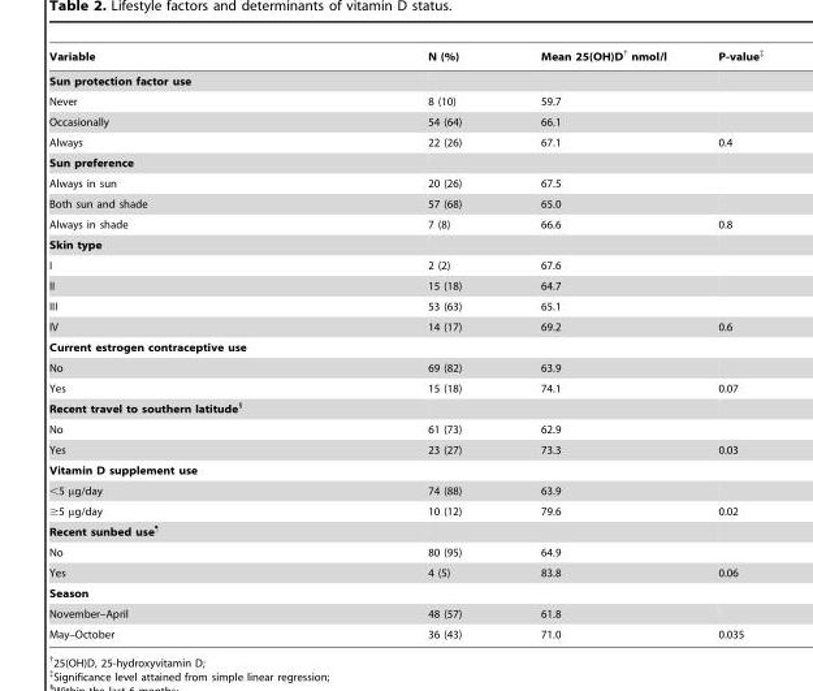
<table><thead><tr><td>Variable</td><td>N (%)</td><td>Mean 25(OH)D† nmol/l</td><td>P-value‡</td></tr></thead><tbody><tr><td colspan="4">Sun protection factor use</td></tr><tr><td>Never</td><td>8 (10)</td><td>59.7</td><td></td></tr><tr><td>Occasionally</td><td>54 (64)</td><td>66.1</td><td></td></tr><tr><td>Always</td><td>22 (26)</td><td>67.1</td><td>0.4</td></tr><tr><td colspan="4">Sun preference</td></tr><tr><td>Always in sun</td><td>20 (26)</td><td>67.5</td><td></td></tr><tr><td>Both sun and shade</td><td>57 (68)</td><td>65.0</td><td></td></tr><tr><td>Always in shade</td><td>7 (8)</td><td>66.6</td><td>0.8</td></tr><tr><td colspan="4">Skin type</td></tr><tr><td>I</td><td>2 (2)</td><td>67.6</td><td></td></tr><tr><td>II</td><td>15 (18)</td><td>64.7</td><td></td></tr><tr><td>III</td><td>53 (63)</td><td>65.1</td><td></td></tr><tr><td>IV</td><td>14 (17)</td><td>69.2</td><td>0.6</td></tr><tr><td colspan="4">Current estrogen contraceptive use</td></tr><tr><td>No</td><td>69 (82)</td><td>63.9</td><td></td></tr><tr><td>Yes</td><td>15 (18)</td><td>74.1</td><td>0.07</td></tr><tr><td colspan="4">Recent travel to southern latitude§</td></tr><tr><td>No</td><td>61 (73)</td><td>62.9</td><td></td></tr><tr><td>Yes</td><td>23 (27)</td><td>73.3</td><td>0.03</td></tr><tr><td colspan="4">Vitamin D supplement use</td></tr><tr><td>&lt;5 µg/day</td><td>74 (88)</td><td>63.9</td><td></td></tr><tr><td>≥5 µg/day</td><td>10 (12)</td><td>79.6</td><td>0.02</td></tr><tr><td colspan="4">Recent sunbed use¶</td></tr><tr><td>No</td><td>80 (95)</td><td>64.9</td><td></td></tr><tr><td>Yes</td><td>4 (5)</td><td>83.8</td><td>0.06</td></tr><tr><td colspan="4">Season</td></tr><tr><td>November–April</td><td>48 (57)</td><td>61.8</td><td></td></tr><tr><td>May–October</td><td>36 (43)</td><td>71.0</td><td>0.035</td></tr></tbody></table>